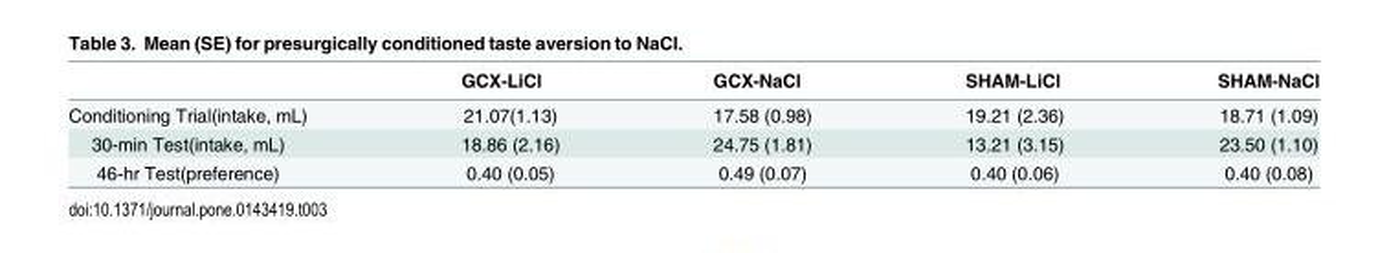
<table><thead><tr><td></td><td>GCX-LiCl</td><td>GCX-NaCl</td><td>SHAM-LiCl</td><td>SHAM-NaCl</td></tr></thead><tbody><tr><td>Conditioning Trial(intake, mL)</td><td>21.07(1.13)</td><td>17.58 (0.98)</td><td>19.21 (2.36)</td><td>18.71 (1.09)</td></tr><tr><td>30-min Test(intake, mL)</td><td>18.86 (2.16)</td><td>24.75 (1.81)</td><td>13.21 (3.15)</td><td>23.50 (1.10)</td></tr><tr><td>46-hr Test(preference)</td><td>0.40 (0.05)</td><td>0.49 (0.07)</td><td>0.40 (0.06)</td><td>0.40 (0.08)</td></tr></tbody></table>